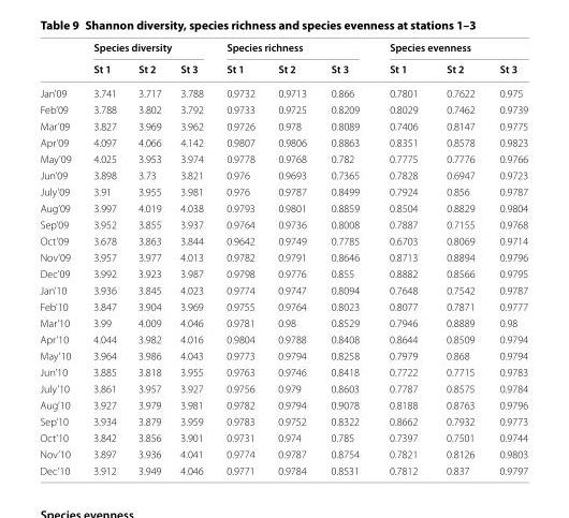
<table><thead><tr><td rowspan="2"></td><td colspan="3">Species diversity</td><td colspan="3">Species richness</td><td colspan="3">Species evenness</td></tr><tr><td>St 1</td><td>St 2</td><td>St 3</td><td>St 1</td><td>St 2</td><td>St 3</td><td>St 1</td><td>St 2</td><td>St 3</td></tr></thead><tbody><tr><td>Jan’09</td><td>3.741</td><td>3.717</td><td>3.788</td><td>0.9732</td><td>0.9713</td><td>0.866</td><td>0.7801</td><td>0.7622</td><td>0.975</td></tr><tr><td>Feb’09</td><td>3.788</td><td>3.802</td><td>3.792</td><td>0.9733</td><td>0.9725</td><td>0.8209</td><td>0.8029</td><td>0.7462</td><td>0.9739</td></tr><tr><td>Mar’09</td><td>3.827</td><td>3.969</td><td>3.962</td><td>0.9726</td><td>0.978</td><td>0.8089</td><td>0.7406</td><td>0.8147</td><td>0.9775</td></tr><tr><td>Apr’09</td><td>4.097</td><td>4.066</td><td>4.142</td><td>0.9807</td><td>0.9806</td><td>0.8863</td><td>0.8351</td><td>0.8578</td><td>0.9823</td></tr><tr><td>May’09</td><td>4.025</td><td>3.953</td><td>3.974</td><td>0.9778</td><td>0.9768</td><td>0.782</td><td>0.7775</td><td>0.7776</td><td>0.9766</td></tr><tr><td>Jun’09</td><td>3.898</td><td>3.73</td><td>3.821</td><td>0.976</td><td>0.9693</td><td>0.7365</td><td>0.7828</td><td>0.6947</td><td>0.9723</td></tr><tr><td>July’09</td><td>3.91</td><td>3.955</td><td>3.981</td><td>0.976</td><td>0.9787</td><td>0.8499</td><td>0.7924</td><td>0.856</td><td>0.9787</td></tr><tr><td>Aug’09</td><td>3.997</td><td>4.019</td><td>4.038</td><td>0.9793</td><td>0.9801</td><td>0.8859</td><td>0.8504</td><td>0.8829</td><td>0.9804</td></tr><tr><td>Sep’09</td><td>3.952</td><td>3.855</td><td>3.937</td><td>0.9764</td><td>0.9736</td><td>0.8008</td><td>0.7887</td><td>0.7155</td><td>0.9768</td></tr><tr><td>Oct’09</td><td>3.678</td><td>3.863</td><td>3.844</td><td>0.9642</td><td>0.9749</td><td>0.7785</td><td>0.6703</td><td>0.8069</td><td>0.9714</td></tr><tr><td>Nov’09</td><td>3.957</td><td>3.977</td><td>4.013</td><td>0.9782</td><td>0.9791</td><td>0.8646</td><td>0.8713</td><td>0.8894</td><td>0.9796</td></tr><tr><td>Dec’09</td><td>3.992</td><td>3.923</td><td>3.987</td><td>0.9798</td><td>0.9776</td><td>0.855</td><td>0.8882</td><td>0.8566</td><td>0.9795</td></tr><tr><td>Jan’10</td><td>3.936</td><td>3.845</td><td>4.023</td><td>0.9774</td><td>0.9747</td><td>0.8094</td><td>0.7648</td><td>0.7542</td><td>0.9787</td></tr><tr><td>Feb’10</td><td>3.847</td><td>3.904</td><td>3.969</td><td>0.9755</td><td>0.9764</td><td>0.8023</td><td>0.8077</td><td>0.7871</td><td>0.9777</td></tr><tr><td>Mar’10</td><td>3.99</td><td>4.009</td><td>4.046</td><td>0.9781</td><td>0.98</td><td>0.8529</td><td>0.7946</td><td>0.8889</td><td>0.98</td></tr><tr><td>Apr’10</td><td>4.044</td><td>3.982</td><td>4.016</td><td>0.9804</td><td>0.9788</td><td>0.8408</td><td>0.8644</td><td>0.8509</td><td>0.9794</td></tr><tr><td>May’10</td><td>3.964</td><td>3.986</td><td>4.043</td><td>0.9773</td><td>0.9794</td><td>0.8258</td><td>0.7979</td><td>0.868</td><td>0.9794</td></tr><tr><td>Jun’10</td><td>3.885</td><td>3.818</td><td>3.955</td><td>0.9763</td><td>0.9746</td><td>0.8418</td><td>0.7722</td><td>0.7715</td><td>0.9783</td></tr><tr><td>July’10</td><td>3.861</td><td>3.957</td><td>3.927</td><td>0.9756</td><td>0.979</td><td>0.8603</td><td>0.7787</td><td>0.8575</td><td>0.9784</td></tr><tr><td>Aug’10</td><td>3.927</td><td>3.979</td><td>3.981</td><td>0.9782</td><td>0.9794</td><td>0.9078</td><td>0.8188</td><td>0.8763</td><td>0.9796</td></tr><tr><td>Sep’10</td><td>3.934</td><td>3.879</td><td>3.959</td><td>0.9783</td><td>0.9752</td><td>0.8322</td><td>0.8662</td><td>0.7932</td><td>0.9773</td></tr><tr><td>Oct’10</td><td>3.842</td><td>3.856</td><td>3.901</td><td>0.9731</td><td>0.974</td><td>0.785</td><td>0.7397</td><td>0.7501</td><td>0.9744</td></tr><tr><td>Nov’10</td><td>3.897</td><td>3.936</td><td>4.041</td><td>0.9774</td><td>0.9787</td><td>0.8754</td><td>0.7821</td><td>0.8126</td><td>0.9803</td></tr><tr><td>Dec’10</td><td>3.912</td><td>3.949</td><td>4.046</td><td>0.9771</td><td>0.9784</td><td>0.8531</td><td>0.7812</td><td>0.837</td><td>0.9797</td></tr></tbody></table>